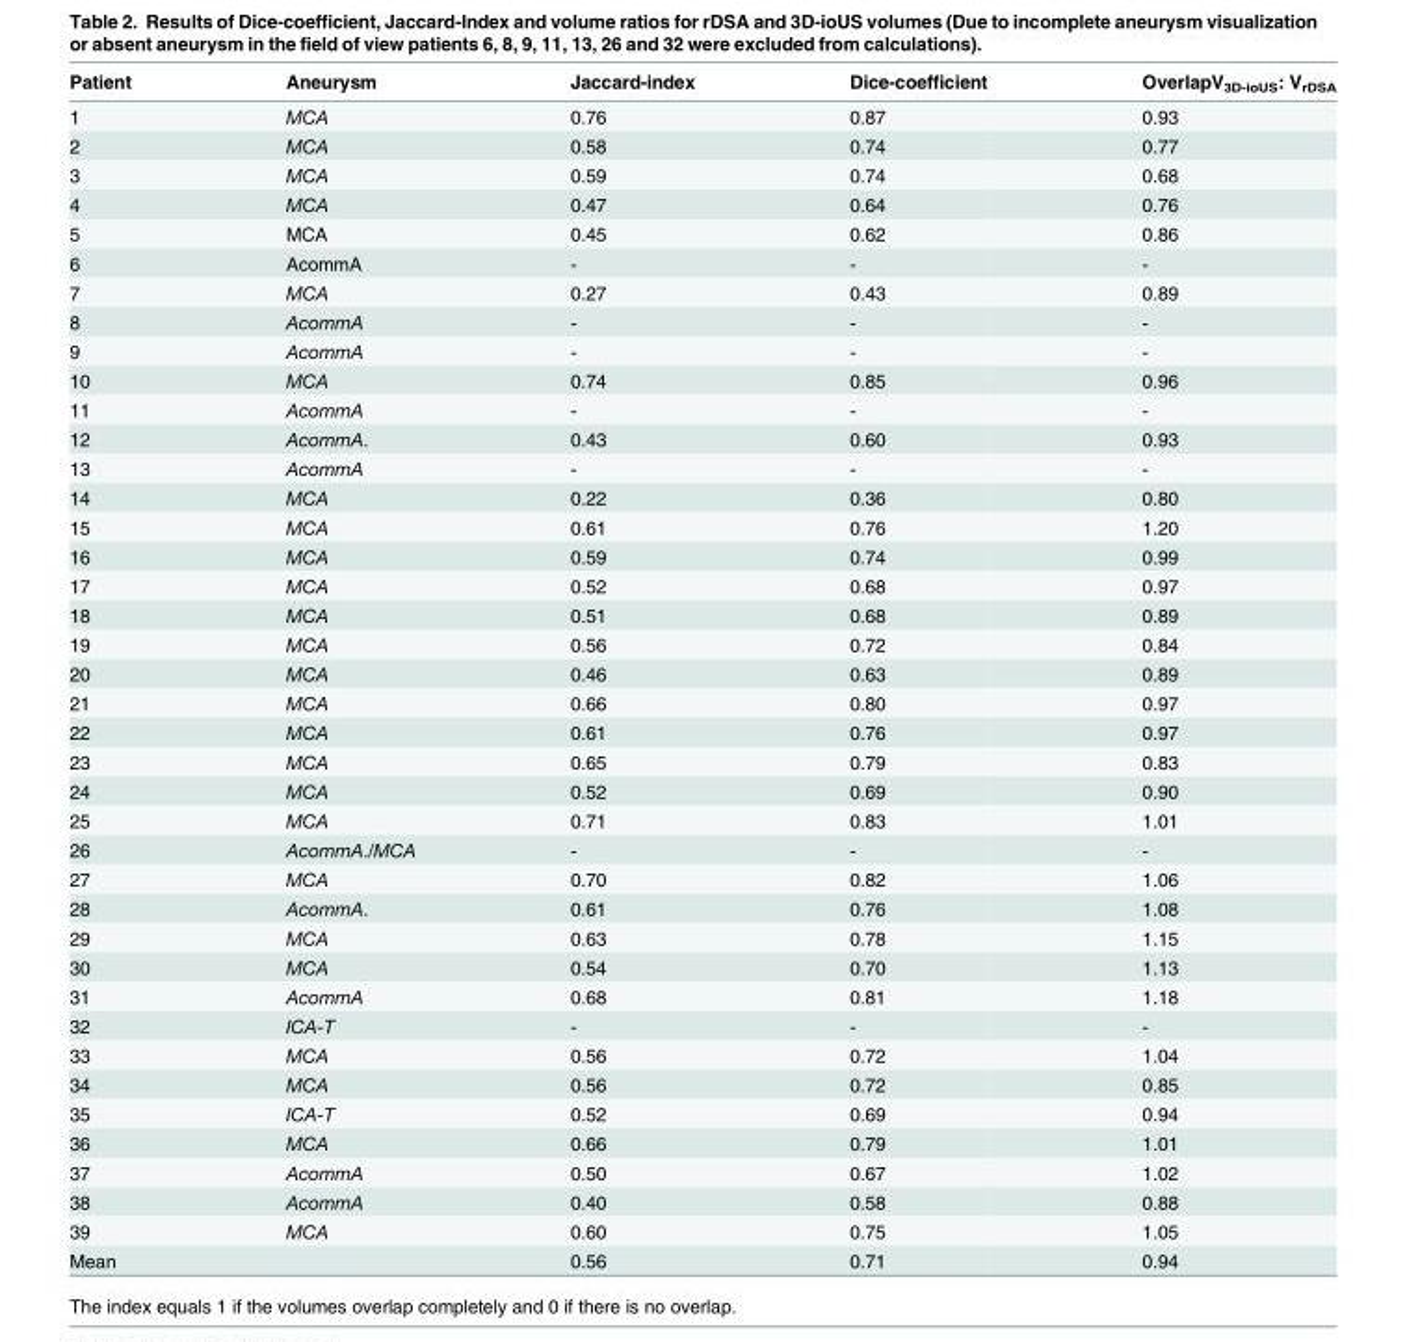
<table><thead><tr><td>Patient</td><td>Aneurysm</td><td>Jaccard-index</td><td>Dice-coefficient</td><td>OverlapV<sub>3D-ioUS</sub>: V<sub>rDSA</sub></td></tr></thead><tbody><tr><td>1</td><td>MCA</td><td>0.76</td><td>0.87</td><td>0.93</td></tr><tr><td>2</td><td>MCA</td><td>0.58</td><td>0.74</td><td>0.77</td></tr><tr><td>3</td><td>MCA</td><td>0.59</td><td>0.74</td><td>0.68</td></tr><tr><td>4</td><td>MCA</td><td>0.47</td><td>0.64</td><td>0.76</td></tr><tr><td>5</td><td>MCA</td><td>0.45</td><td>0.62</td><td>0.86</td></tr><tr><td>6</td><td>AcommA</td><td>-</td><td>-</td><td>-</td></tr><tr><td>7</td><td>MCA</td><td>0.27</td><td>0.43</td><td>0.89</td></tr><tr><td>8</td><td>AcommA</td><td>-</td><td>-</td><td>-</td></tr><tr><td>9</td><td>AcommA</td><td>-</td><td>-</td><td>-</td></tr><tr><td>10</td><td>MCA</td><td>0.74</td><td>0.85</td><td>0.96</td></tr><tr><td>11</td><td>AcommA</td><td>-</td><td>-</td><td>-</td></tr><tr><td>12</td><td>AcommA.</td><td>0.43</td><td>0.60</td><td>0.93</td></tr><tr><td>13</td><td>AcommA</td><td>-</td><td>-</td><td>-</td></tr><tr><td>14</td><td>MCA</td><td>0.22</td><td>0.36</td><td>0.80</td></tr><tr><td>15</td><td>MCA</td><td>0.61</td><td>0.76</td><td>1.20</td></tr><tr><td>16</td><td>MCA</td><td>0.59</td><td>0.74</td><td>0.99</td></tr><tr><td>17</td><td>MCA</td><td>0.52</td><td>0.68</td><td>0.97</td></tr><tr><td>18</td><td>MCA</td><td>0.51</td><td>0.68</td><td>0.89</td></tr><tr><td>19</td><td>MCA</td><td>0.56</td><td>0.72</td><td>0.84</td></tr><tr><td>20</td><td>MCA</td><td>0.46</td><td>0.63</td><td>0.89</td></tr><tr><td>21</td><td>MCA</td><td>0.66</td><td>0.80</td><td>0.97</td></tr><tr><td>22</td><td>MCA</td><td>0.61</td><td>0.76</td><td>0.97</td></tr><tr><td>23</td><td>MCA</td><td>0.65</td><td>0.79</td><td>0.83</td></tr><tr><td>24</td><td>MCA</td><td>0.52</td><td>0.69</td><td>0.90</td></tr><tr><td>25</td><td>MCA</td><td>0.71</td><td>0.83</td><td>1.01</td></tr><tr><td>26</td><td>AcommA./MCA</td><td>-</td><td>-</td><td>-</td></tr><tr><td>27</td><td>MCA</td><td>0.70</td><td>0.82</td><td>1.06</td></tr><tr><td>28</td><td>AcommA.</td><td>0.61</td><td>0.76</td><td>1.08</td></tr><tr><td>29</td><td>MCA</td><td>0.63</td><td>0.78</td><td>1.15</td></tr><tr><td>30</td><td>MCA</td><td>0.54</td><td>0.70</td><td>1.13</td></tr><tr><td>31</td><td>AcommA</td><td>0.68</td><td>0.81</td><td>1.18</td></tr><tr><td>32</td><td>ICA-T</td><td>-</td><td>-</td><td>-</td></tr><tr><td>33</td><td>MCA</td><td>0.56</td><td>0.72</td><td>1.04</td></tr><tr><td>34</td><td>MCA</td><td>0.56</td><td>0.72</td><td>0.85</td></tr><tr><td>35</td><td>ICA-T</td><td>0.52</td><td>0.69</td><td>0.94</td></tr><tr><td>36</td><td>MCA</td><td>0.66</td><td>0.79</td><td>1.01</td></tr><tr><td>37</td><td>AcommA</td><td>0.50</td><td>0.67</td><td>1.02</td></tr><tr><td>38</td><td>AcommA</td><td>0.40</td><td>0.58</td><td>0.88</td></tr><tr><td>39</td><td>MCA</td><td>0.60</td><td>0.75</td><td>1.05</td></tr><tr><td>Mean</td><td></td><td>0.56</td><td>0.71</td><td>0.94</td></tr></tbody></table>